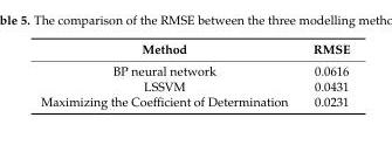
<table><thead><tr><td>Method</td><td>RMSE</td></tr></thead><tbody><tr><td>BP neural network</td><td>0.0616</td></tr><tr><td>LSSVM</td><td>0.0431</td></tr><tr><td>Maximizing the Coefficient of Determination</td><td>0.0231</td></tr></tbody></table>